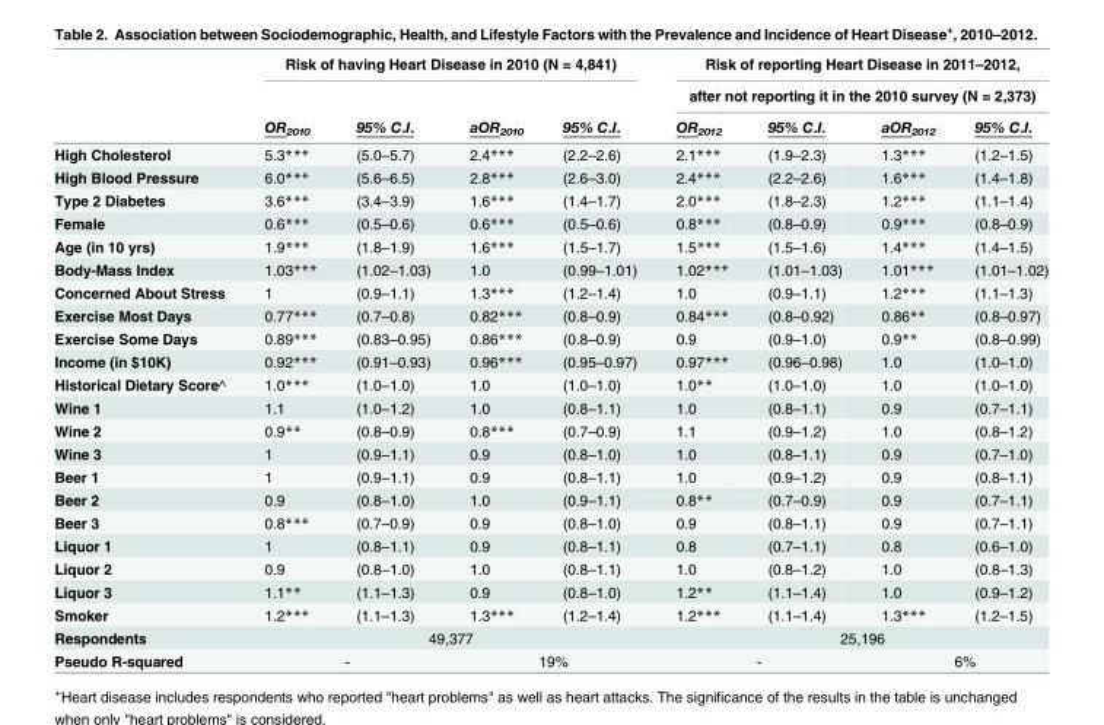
<table><thead><tr><td rowspan="3"></td><td colspan="4">Risk of having Heart Disease in 2010 (N = 4,841)</td><td rowspan="2" colspan="4">Risk of reporting Heart Disease in 2011–2012, after not reporting it in the 2010 survey (N = 2,373)</td></tr><tr><td rowspan="2">OR<sub>2010</sub></td><td rowspan="2">95% C.I.</td><td rowspan="2">aOR<sub>2010</sub></td><td rowspan="2">95% C.I.</td></tr><tr><td>OR<sub>2012</sub></td><td>95% C.I.</td><td>aOR<sub>2012</sub></td><td>95% C.I.</td></tr></thead><tbody><tr><td>High Cholesterol</td><td>5.3***</td><td>(5.0–5.7)</td><td>2.4***</td><td>(2.2–2.6)</td><td>2.1***</td><td>(1.9–2.3)</td><td>1.3***</td><td>(1.2–1.5)</td></tr><tr><td>High Blood Pressure</td><td>6.0***</td><td>(5.6–6.5)</td><td>2.8***</td><td>(2.6–3.0)</td><td>2.4***</td><td>(2.2–2.6)</td><td>1.6***</td><td>(1.4–1.8)</td></tr><tr><td>Type 2 Diabetes</td><td>3.6***</td><td>(3.4–3.9)</td><td>1.6***</td><td>(1.4–1.7)</td><td>2.0***</td><td>(1.8–2.3)</td><td>1.2***</td><td>(1.1–1.4)</td></tr><tr><td>Female</td><td>0.6***</td><td>(0.5–0.6)</td><td>0.6***</td><td>(0.5–0.6)</td><td>0.8***</td><td>(0.8–0.9)</td><td>0.9***</td><td>(0.8–0.9)</td></tr><tr><td>Age (in 10 yrs)</td><td>1.9***</td><td>(1.8–1.9)</td><td>1.6***</td><td>(1.5–1.7)</td><td>1.5***</td><td>(1.5–1.6)</td><td>1.4***</td><td>(1.4–1.5)</td></tr><tr><td>Body-Mass Index</td><td>1.03***</td><td>(1.02–1.03)</td><td>1.0</td><td>(0.99–1.01)</td><td>1.02***</td><td>(1.01–1.03)</td><td>1.01***</td><td>(1.01–1.02)</td></tr><tr><td>Concerned About Stress</td><td>1</td><td>(0.9–1.1)</td><td>1.3***</td><td>(1.2–1.4)</td><td>1.0</td><td>(0.9–1.1)</td><td>1.2***</td><td>(1.1–1.3)</td></tr><tr><td>Exercise Most Days</td><td>0.77***</td><td>(0.7–0.8)</td><td>0.82***</td><td>(0.8–0.9)</td><td>0.84***</td><td>(0.8–0.92)</td><td>0.86**</td><td>(0.8–0.97)</td></tr><tr><td>Exercise Some Days</td><td>0.89***</td><td>(0.83–0.95)</td><td>0.86***</td><td>(0.8–0.9)</td><td>0.9</td><td>(0.9–1.0)</td><td>0.9**</td><td>(0.8–0.99)</td></tr><tr><td>Income (in $10K)</td><td>0.92***</td><td>(0.91–0.93)</td><td>0.96***</td><td>(0.95–0.97)</td><td>0.97***</td><td>(0.96–0.98)</td><td>1.0</td><td>(1.0–1.0)</td></tr><tr><td>Historical Dietary Score^</td><td>1.0***</td><td>(1.0–1.0)</td><td>1.0</td><td>(1.0–1.0)</td><td>1.0**</td><td>(1.0–1.0)</td><td>1.0</td><td>(1.0–1.0)</td></tr><tr><td>Wine 1</td><td>1.1</td><td>(1.0–1.2)</td><td>1.0</td><td>(0.8–1.1)</td><td>1.0</td><td>(0.8–1.1)</td><td>0.9</td><td>(0.7–1.1)</td></tr><tr><td>Wine 2</td><td>0.9**</td><td>(0.8–0.9)</td><td>0.8***</td><td>(0.7–0.9)</td><td>1.1</td><td>(0.9–1.2)</td><td>1.0</td><td>(0.8–1.2)</td></tr><tr><td>Wine 3</td><td>1</td><td>(0.9–1.1)</td><td>0.9</td><td>(0.8–1.0)</td><td>1.0</td><td>(0.8–1.1)</td><td>0.9</td><td>(0.7–1.0)</td></tr><tr><td>Beer 1</td><td>1</td><td>(0.9–1.1)</td><td>0.9</td><td>(0.8–1.1)</td><td>1.0</td><td>(0.9–1.2)</td><td>0.9</td><td>(0.8–1.1)</td></tr><tr><td>Beer 2</td><td>0.9</td><td>(0.8–1.0)</td><td>1.0</td><td>(0.9–1.1)</td><td>0.8**</td><td>(0.7–0.9)</td><td>0.9</td><td>(0.7–1.1)</td></tr><tr><td>Beer 3</td><td>0.8***</td><td>(0.7–0.9)</td><td>0.9</td><td>(0.8–1.0)</td><td>0.9</td><td>(0.8–1.1)</td><td>0.9</td><td>(0.7–1.1)</td></tr><tr><td>Liquor 1</td><td>1</td><td>(0.8–1.1)</td><td>0.9</td><td>(0.8–1.1)</td><td>0.8</td><td>(0.7–1.1)</td><td>0.8</td><td>(0.6–1.0)</td></tr><tr><td>Liquor 2</td><td>0.9</td><td>(0.8–1.0)</td><td>1.0</td><td>(0.8–1.1)</td><td>1.0</td><td>(0.8–1.2)</td><td>1.0</td><td>(0.8–1.3)</td></tr><tr><td>Liquor 3</td><td>1.1**</td><td>(1.1–1.3)</td><td>0.9</td><td>(0.8–1.0)</td><td>1.2**</td><td>(1.1–1.4)</td><td>1.0</td><td>(0.9–1.2)</td></tr><tr><td>Smoker</td><td>1.2***</td><td>(1.1–1.3)</td><td>1.3***</td><td>(1.2–1.4)</td><td>1.2***</td><td>(1.1–1.4)</td><td>1.3***</td><td>(1.2–1.5)</td></tr><tr><td>Respondents</td><td colspan="4">49,377</td><td colspan="4">25,196</td></tr><tr><td>Pseudo R-squared</td><td colspan="2">-</td><td colspan="2">19%</td><td colspan="2">-</td><td colspan="2">6%</td></tr></tbody></table>